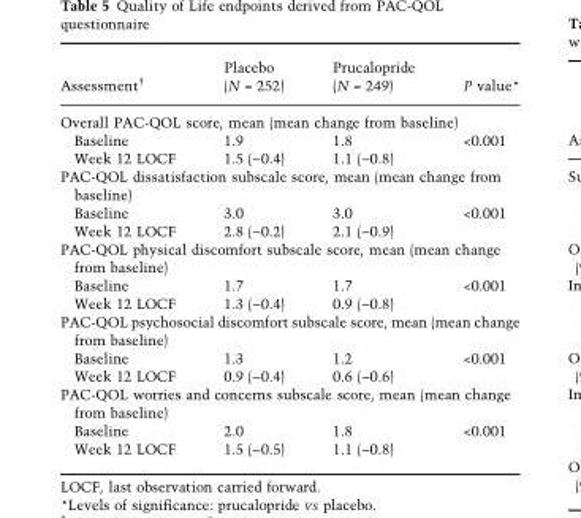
<table><thead><tr><td>Assessment†</td><td>Placebo (N = 252)</td><td>Prucalopride (N = 249)</td><td>P value*</td></tr></thead><tbody><tr><td colspan="4">Overall PAC-QOL score, mean (mean change from baseline)</td></tr><tr><td>Baseline</td><td>1.9</td><td>1.8</td><td>&lt;0.001</td></tr><tr><td>Week 12 LOCF</td><td>1.5 (−0.4)</td><td>1.1 (−0.8)</td><td></td></tr><tr><td colspan="4">PAC-QOL dissatisfaction subscale score, mean (mean change from baseline)</td></tr><tr><td>Baseline</td><td>3.0</td><td>3.0</td><td>&lt;0.001</td></tr><tr><td>Week 12 LOCF</td><td>2.8 (−0.2)</td><td>2.1 (−0.9)</td><td></td></tr><tr><td colspan="4">PAC-QOL physical discomfort subscale score, mean (mean change from baseline)</td></tr><tr><td>Baseline</td><td>1.7</td><td>1.7</td><td>&lt;0.001</td></tr><tr><td>Week 12 LOCF</td><td>1.3 (−0.4)</td><td>0.9 (−0.8)</td><td></td></tr><tr><td colspan="4">PAC-QOL psychosocial discomfort subscale score, mean (mean change from baseline)</td></tr><tr><td>Baseline</td><td>1.3</td><td>1.2</td><td>&lt;0.001</td></tr><tr><td>Week 12 LOCF</td><td>0.9 (−0.4)</td><td>0.6 (−0.6)</td><td></td></tr><tr><td colspan="4">PAC-QOL worries and concerns subscale score, mean (mean change from baseline)</td></tr><tr><td>Baseline</td><td>2.0</td><td>1.8</td><td>&lt;0.001</td></tr><tr><td>Week 12 LOCF</td><td>1.5 (−0.5)</td><td>1.1 (−0.8)</td><td></td></tr></tbody></table>